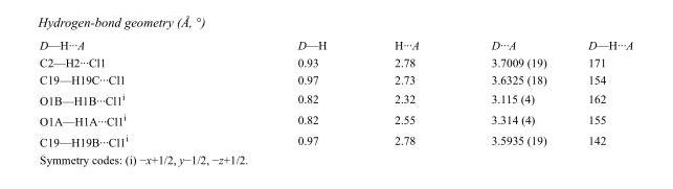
<table><tbody><tr><td>D—H···A</td><td>D—H</td><td>H···A</td><td>D···A</td><td>D—H···A</td></tr><tr><td>C2—H2···Cl1</td><td>0.93</td><td>2.78</td><td>3.7009 (19)</td><td>171</td></tr><tr><td>C19—H19C···Cl1</td><td>0.97</td><td>2.73</td><td>3.6325 (18)</td><td>154</td></tr><tr><td>O1B—H1B···Cl1<sup>i</sup></td><td>0.82</td><td>2.32</td><td>3.115 (4)</td><td>162</td></tr><tr><td>O1A—H1A···Cl1<sup>i</sup></td><td>0.82</td><td>2.55</td><td>3.314 (4)</td><td>155</td></tr><tr><td>C19—H19B···Cl1<sup>i</sup></td><td>0.97</td><td>2.78</td><td>3.5935 (19)</td><td>142</td></tr></tbody></table>